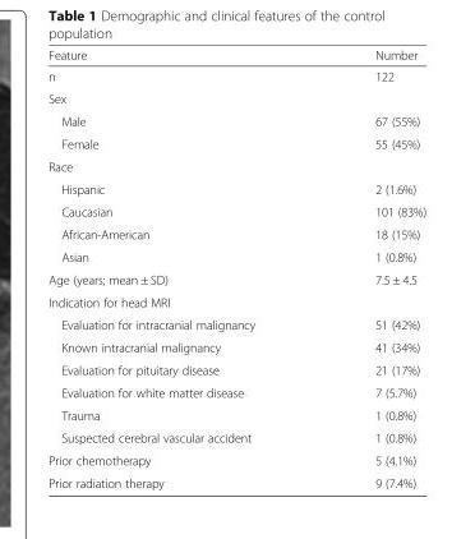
<table><thead><tr><td>Feature</td><td>Number</td></tr></thead><tbody><tr><td>n</td><td>122</td></tr><tr><td colspan="2">Sex</td></tr><tr><td>Male</td><td>67 (55%)</td></tr><tr><td>Female</td><td>55 (45%)</td></tr><tr><td colspan="2">Race</td></tr><tr><td>Hispanic</td><td>2 (1.6%)</td></tr><tr><td>Caucasian</td><td>101 (83%)</td></tr><tr><td>African-American</td><td>18 (15%)</td></tr><tr><td>Asian</td><td>1 (0.8%)</td></tr><tr><td>Age (years; mean ± SD)</td><td>7.5 ± 4.5</td></tr><tr><td colspan="2">Indication for head MRI</td></tr><tr><td>Evaluation for intracranial malignancy</td><td>51 (42%)</td></tr><tr><td>Known intracranial malignancy</td><td>41 (34%)</td></tr><tr><td>Evaluation for pituitary disease</td><td>21 (17%)</td></tr><tr><td>Evaluation for white matter disease</td><td>7 (5.7%)</td></tr><tr><td>Trauma</td><td>1 (0.8%)</td></tr><tr><td>Suspected cerebral vascular accident</td><td>1 (0.8%)</td></tr><tr><td>Prior chemotherapy</td><td>5 (4.1%)</td></tr><tr><td>Prior radiation therapy</td><td>9 (7.4%)</td></tr></tbody></table>